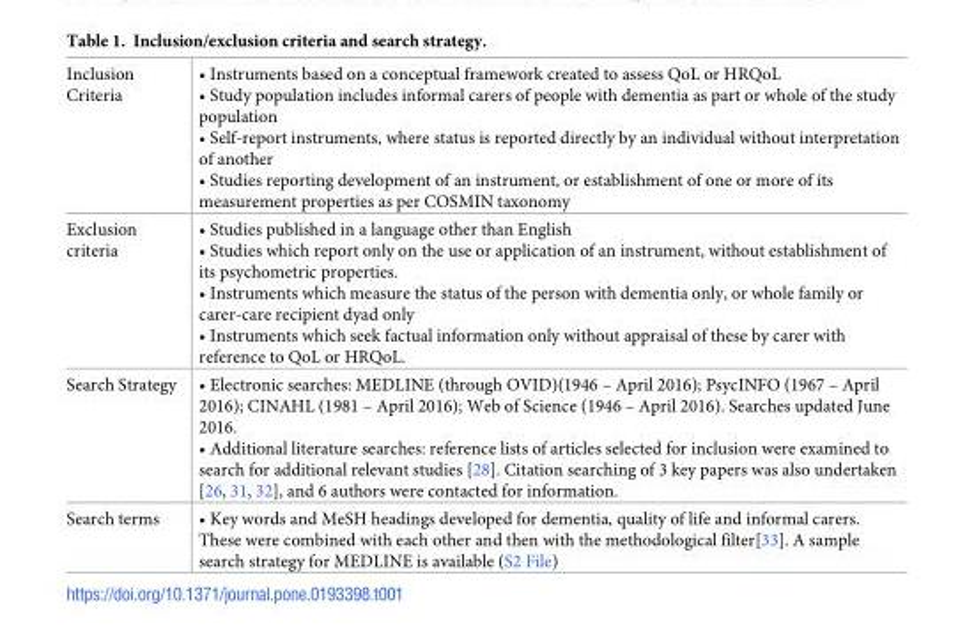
<table><tbody><tr><td>Inclusion Criteria</td><td>• Instruments based on a conceptual framework created to assess QoL or HRQoL • Study population includes informal carers of people with dementia as part or whole of the study population • Self-report instruments, where status is reported directly by an individual without interpretation of another • Studies reporting development of an instrument, or establishment of one or more of its measurement properties as per COSMIN taxonomy</td></tr><tr><td>Exclusion criteria</td><td>• Studies published in a language other than English • Studies which report only on the use or application of an instrument, without establishment of its psychometric properties. • Instruments which measure the status of the person with dementia only, or whole family or carer-care recipient dyad only • Instruments which seek factual information only without appraisal of these by carer with reference to QoL or HRQoL.</td></tr><tr><td>Search Strategy</td><td>• Electronic searches: MEDLINE (through OVID)(1946 – April 2016); PsycINFO (1967 – April 2016); CINAHL (1981 – April 2016); Web of Science (1946 – April 2016). Searches updated June 2016. • Additional literature searches: reference lists of articles selected for inclusion were examined to search for additional relevant studies [28]. Citation searching of 3 key papers was also undertaken [26, 31, 32], and 6 authors were contacted for information.</td></tr><tr><td>Search terms</td><td>• Key words and MeSH headings developed for dementia, quality of life and informal carers. These were combined with each other and then with the methodological filter[33]. A sample search strategy for MEDLINE is available (S2 File)</td></tr></tbody></table>